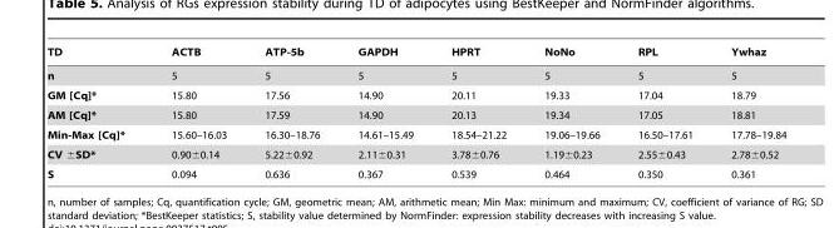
<table><thead><tr><td>TD</td><td>ACTB</td><td>ATP-5b</td><td>GAPDH</td><td>HPRT</td><td>NoNo</td><td>RPL</td><td>Ywhaz</td></tr></thead><tbody><tr><td>n</td><td>5</td><td>5</td><td>5</td><td>5</td><td>5</td><td>5</td><td>5</td></tr><tr><td>GM [Cq]*</td><td>15.80</td><td>17.56</td><td>14.90</td><td>20.11</td><td>19.33</td><td>17.04</td><td>18.79</td></tr><tr><td>AM [Cq]*</td><td>15.80</td><td>17.59</td><td>14.90</td><td>20.13</td><td>19.34</td><td>17.05</td><td>18.81</td></tr><tr><td>Min-Max [Cq]*</td><td>15.60–16.03</td><td>16.30–18.76</td><td>14.61–15.49</td><td>18.54–21.22</td><td>19.06–19.66</td><td>16.50–17.61</td><td>17.78–19.84</td></tr><tr><td>CV ±SD*</td><td>0.90±0.14</td><td>5.22±0.92</td><td>2.11±0.31</td><td>3.78±0.76</td><td>1.19±0.23</td><td>2.55±0.43</td><td>2.78±0.52</td></tr><tr><td>S</td><td>0.094</td><td>0.636</td><td>0.367</td><td>0.539</td><td>0.464</td><td>0.350</td><td>0.361</td></tr></tbody></table>